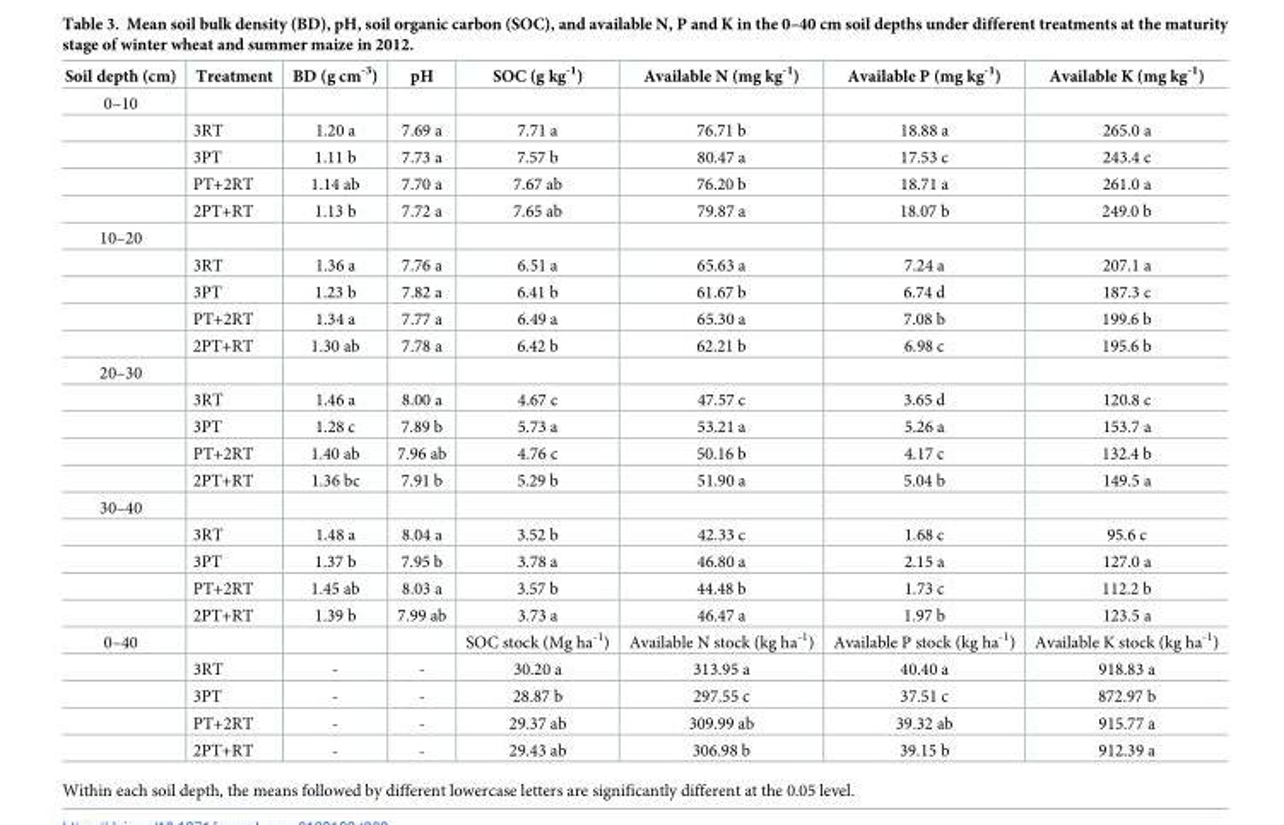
<table><thead><tr><td>Soil depth (cm)</td><td>Treatment</td><td>BD (g cm<sup>-3</sup>)</td><td>pH</td><td>SOC (g kg<sup>-1</sup>)</td><td>Available N (mg kg<sup>-1</sup>)</td><td>Available P (mg kg<sup>-1</sup>)</td><td>Available K (mg kg<sup>-1</sup>)</td></tr></thead><tbody><tr><td colspan="8">0–10</td></tr><tr><td></td><td>3RT</td><td>1.20 a</td><td>7.69 a</td><td>7.71 a</td><td>76.71 b</td><td>18.88 a</td><td>265.0 a</td></tr><tr><td></td><td>3PT</td><td>1.11 b</td><td>7.73 a</td><td>7.57 b</td><td>80.47 a</td><td>17.53 c</td><td>243.4 c</td></tr><tr><td></td><td>PT+2RT</td><td>1.14 ab</td><td>7.70 a</td><td>7.67 ab</td><td>76.20 b</td><td>18.71 a</td><td>261.0 a</td></tr><tr><td></td><td>2PT+RT</td><td>1.13 b</td><td>7.72 a</td><td>7.65 ab</td><td>79.87 a</td><td>18.07 b</td><td>249.0 b</td></tr><tr><td colspan="8">10–20</td></tr><tr><td></td><td>3RT</td><td>1.36 a</td><td>7.76 a</td><td>6.51 a</td><td>65.63 a</td><td>7.24 a</td><td>207.1 a</td></tr><tr><td></td><td>3PT</td><td>1.23 b</td><td>7.82 a</td><td>6.41 b</td><td>61.67 b</td><td>6.74 d</td><td>187.3 c</td></tr><tr><td></td><td>PT+2RT</td><td>1.34 a</td><td>7.77 a</td><td>6.49 a</td><td>65.30 a</td><td>7.08 b</td><td>199.6 b</td></tr><tr><td></td><td>2PT+RT</td><td>1.30 ab</td><td>7.78 a</td><td>6.42 b</td><td>62.21 b</td><td>6.98 c</td><td>195.6 b</td></tr><tr><td colspan="8">20–30</td></tr><tr><td></td><td>3RT</td><td>1.46 a</td><td>8.00 a</td><td>4.67 c</td><td>47.57 c</td><td>3.65 d</td><td>120.8 c</td></tr><tr><td></td><td>3PT</td><td>1.28 c</td><td>7.89 b</td><td>5.73 a</td><td>53.21 a</td><td>5.26 a</td><td>153.7 a</td></tr><tr><td></td><td>PT+2RT</td><td>1.40 ab</td><td>7.96 ab</td><td>4.76 c</td><td>50.16 b</td><td>4.17 c</td><td>132.4 b</td></tr><tr><td></td><td>2PT+RT</td><td>1.36 bc</td><td>7.91 b</td><td>5.29 b</td><td>51.90 a</td><td>5.04 b</td><td>149.5 a</td></tr><tr><td colspan="8">30–40</td></tr><tr><td></td><td>3RT</td><td>1.48 a</td><td>8.04 a</td><td>3.52 b</td><td>42.33 c</td><td>1.68 c</td><td>95.6 c</td></tr><tr><td></td><td>3PT</td><td>1.37 b</td><td>7.95 b</td><td>3.78 a</td><td>46.80 a</td><td>2.15 a</td><td>127.0 a</td></tr><tr><td></td><td>PT+2RT</td><td>1.45 ab</td><td>8.03 a</td><td>3.57 b</td><td>44.48 b</td><td>1.73 c</td><td>112.2 b</td></tr><tr><td></td><td>2PT+RT</td><td>1.39 b</td><td>7.99 ab</td><td>3.73 a</td><td>46.47 a</td><td>1.97 b</td><td>123.5 a</td></tr><tr><td rowspan="5">0–40</td><td></td><td></td><td></td><td>SOC stock (Mg ha<sup>-1</sup>)</td><td>Available N stock (kg ha<sup>-1</sup>)</td><td>Available P stock (kg ha<sup>-1</sup>)</td><td>Available K stock (kg ha<sup>-1</sup>)</td></tr><tr><td>3RT</td><td>-</td><td>-</td><td>30.20 a</td><td>313.95 a</td><td>40.40 a</td><td>918.83 a</td></tr><tr><td>3PT</td><td>-</td><td>-</td><td>28.87 b</td><td>297.55 c</td><td>37.51 c</td><td>872.97 b</td></tr><tr><td>PT+2RT</td><td>-</td><td>-</td><td>29.37 ab</td><td>309.99 ab</td><td>39.32 ab</td><td>915.77 a</td></tr><tr><td>2PT+RT</td><td>-</td><td>-</td><td>29.43 ab</td><td>306.98 b</td><td>39.15 b</td><td>912.39 a</td></tr></tbody></table>